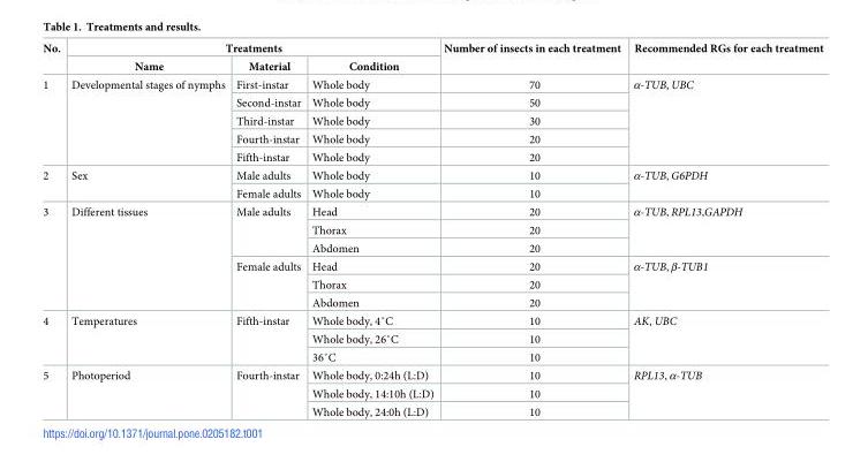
<table><thead><tr><td rowspan="2">No.</td><td colspan="3">Treatments</td><td rowspan="2">Number of insects in each treatment</td><td rowspan="2">Recommended RGs for each treatment</td></tr><tr><td>Name</td><td>Material</td><td>Condition</td></tr></thead><tbody><tr><td rowspan="5">1</td><td rowspan="5">Developmental stages of nymphs</td><td>First-instar</td><td>Whole body</td><td>70</td><td rowspan="5">α-TUB, UBC</td></tr><tr><td>Second-instar</td><td>Whole body</td><td>50</td></tr><tr><td>Third-instar</td><td>Whole body</td><td>30</td></tr><tr><td>Fourth-instar</td><td>Whole body</td><td>20</td></tr><tr><td>Fifth-instar</td><td>Whole body</td><td>20</td></tr><tr><td rowspan="2">2</td><td rowspan="2">Sex</td><td>Male adults</td><td>Whole body</td><td>10</td><td rowspan="2">α-TUB, G6PDH</td></tr><tr><td>Female adults</td><td>Whole body</td><td>10</td></tr><tr><td rowspan="6">3</td><td rowspan="6">Different tissues</td><td rowspan="3">Male adults</td><td>Head</td><td>20</td><td rowspan="3">α-TUB, RPL13,GAPDH</td></tr><tr><td>Thorax</td><td>20</td></tr><tr><td>Abdomen</td><td>20</td></tr><tr><td rowspan="3">Female adults</td><td>Head</td><td>20</td><td rowspan="3">α-TUB, β-TUB1</td></tr><tr><td>Thorax</td><td>20</td></tr><tr><td>Abdomen</td><td>20</td></tr><tr><td rowspan="3">4</td><td rowspan="3">Temperatures</td><td rowspan="3">Fifth-instar</td><td>Whole body, 4˚C</td><td>10</td><td rowspan="3">AK, UBC</td></tr><tr><td>Whole body, 26˚C</td><td>10</td></tr><tr><td>36˚C</td><td>10</td></tr><tr><td rowspan="3">5</td><td rowspan="3">Photoperiod</td><td rowspan="3">Fourth-instar</td><td>Whole body, 0:24h (L:D)</td><td>10</td><td rowspan="3">RPL13, α-TUB</td></tr><tr><td>Whole body, 14:10h (L:D)</td><td>10</td></tr><tr><td>Whole body, 24:0h (L:D)</td><td>10</td></tr></tbody></table>